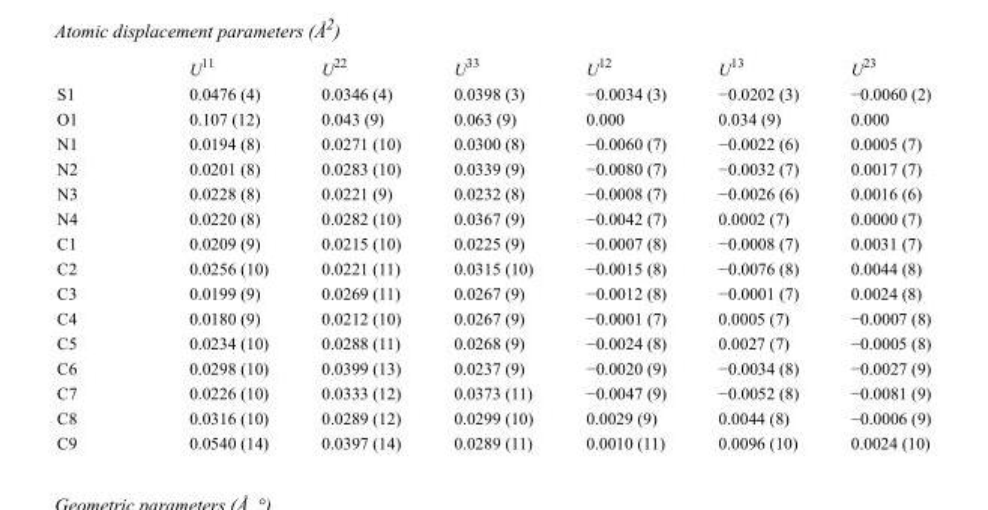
<table><thead><tr><td></td><td>U<sup>11</sup></td><td>U<sup>22</sup></td><td>U<sup>33</sup></td><td>U<sup>12</sup></td><td>U<sup>13</sup></td><td>U<sup>23</sup></td></tr></thead><tbody><tr><td>S1</td><td>0.0476 (4)</td><td>0.0346 (4)</td><td>0.0398 (3)</td><td>−0.0034 (3)</td><td>−0.0202 (3)</td><td>−0.0060 (2)</td></tr><tr><td>O1</td><td>0.107 (12)</td><td>0.043 (9)</td><td>0.063 (9)</td><td>0.000</td><td>0.034 (9)</td><td>0.000</td></tr><tr><td>N1</td><td>0.0194 (8)</td><td>0.0271 (10)</td><td>0.0300 (8)</td><td>−0.0060 (7)</td><td>−0.0022 (6)</td><td>0.0005 (7)</td></tr><tr><td>N2</td><td>0.0201 (8)</td><td>0.0283 (10)</td><td>0.0339 (9)</td><td>−0.0080 (7)</td><td>−0.0032 (7)</td><td>0.0017 (7)</td></tr><tr><td>N3</td><td>0.0228 (8)</td><td>0.0221 (9)</td><td>0.0232 (8)</td><td>−0.0008 (7)</td><td>−0.0026 (6)</td><td>0.0016 (6)</td></tr><tr><td>N4</td><td>0.0220 (8)</td><td>0.0282 (10)</td><td>0.0367 (9)</td><td>−0.0042 (7)</td><td>0.0002 (7)</td><td>0.0000 (7)</td></tr><tr><td>C1</td><td>0.0209 (9)</td><td>0.0215 (10)</td><td>0.0225 (9)</td><td>−0.0007 (8)</td><td>−0.0008 (7)</td><td>0.0031 (7)</td></tr><tr><td>C2</td><td>0.0256 (10)</td><td>0.0221 (11)</td><td>0.0315 (10)</td><td>−0.0015 (8)</td><td>−0.0076 (8)</td><td>0.0044 (8)</td></tr><tr><td>C3</td><td>0.0199 (9)</td><td>0.0269 (11)</td><td>0.0267 (9)</td><td>−0.0012 (8)</td><td>−0.0001 (7)</td><td>0.0024 (8)</td></tr><tr><td>C4</td><td>0.0180 (9)</td><td>0.0212 (10)</td><td>0.0267 (9)</td><td>−0.0001 (7)</td><td>0.0005 (7)</td><td>−0.0007 (8)</td></tr><tr><td>C5</td><td>0.0234 (10)</td><td>0.0288 (11)</td><td>0.0268 (9)</td><td>−0.0024 (8)</td><td>0.0027 (7)</td><td>−0.0005 (8)</td></tr><tr><td>C6</td><td>0.0298 (10)</td><td>0.0399 (13)</td><td>0.0237 (9)</td><td>−0.0020 (9)</td><td>−0.0034 (8)</td><td>−0.0027 (9)</td></tr><tr><td>C7</td><td>0.0226 (10)</td><td>0.0333 (12)</td><td>0.0373 (11)</td><td>−0.0047 (9)</td><td>−0.0052 (8)</td><td>−0.0081 (9)</td></tr><tr><td>C8</td><td>0.0316 (10)</td><td>0.0289 (12)</td><td>0.0299 (10)</td><td>0.0029 (9)</td><td>0.0044 (8)</td><td>−0.0006 (9)</td></tr><tr><td>C9</td><td>0.0540 (14)</td><td>0.0397 (14)</td><td>0.0289 (11)</td><td>0.0010 (11)</td><td>0.0096 (10)</td><td>0.0024 (10)</td></tr></tbody></table>